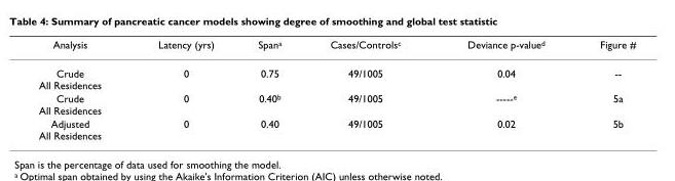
<table><thead><tr><td>Analysis</td><td>Latency (yrs)</td><td>Span<sup>a</sup></td><td>Cases/Controls<sup>c</sup></td><td>Deviance p-value<sup>d</sup></td><td>Figure #</td></tr></thead><tbody><tr><td>Crude All Residences</td><td>0</td><td>0.75</td><td>49/1005</td><td>0.04</td><td>--</td></tr><tr><td>Crude All Residences</td><td>0</td><td>0.40<sup>b</sup></td><td>49/1005</td><td>-----<sup>e</sup></td><td>5a</td></tr><tr><td>Adjusted All Residences</td><td>0</td><td>0.40</td><td>49/1005</td><td>0.02</td><td>5b</td></tr></tbody></table>